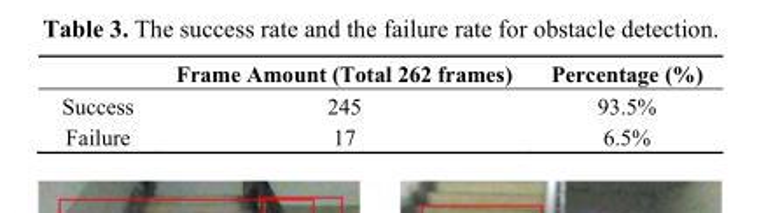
<table><thead><tr><td></td><td>Frame Amount (Total 262 frames)</td><td>Percentage (%)</td></tr></thead><tbody><tr><td>Success</td><td>245</td><td>93.5%</td></tr><tr><td>Failure</td><td>17</td><td>6.5%</td></tr></tbody></table>